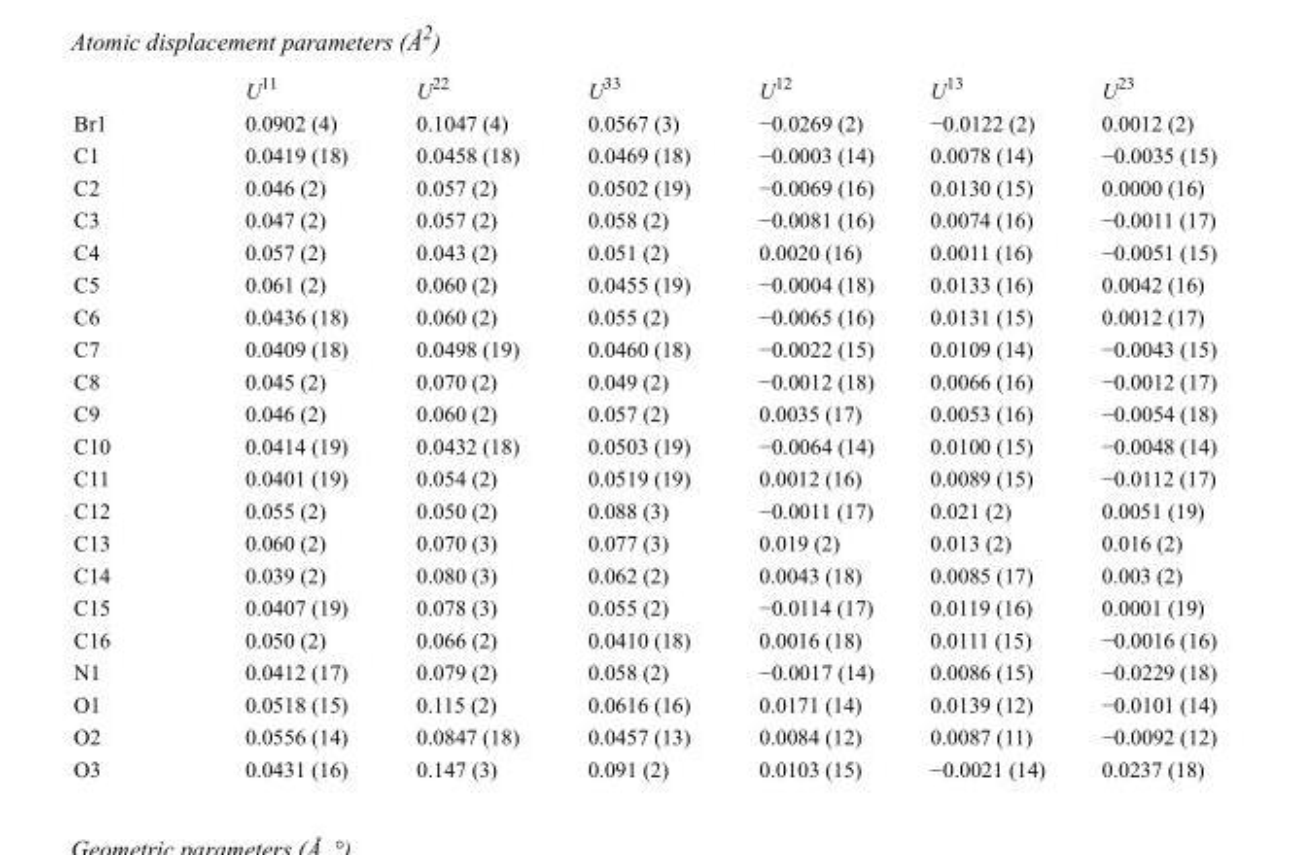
<table><thead><tr><td></td><td>U<sup>11</sup></td><td>U<sup>22</sup></td><td>U<sup>33</sup></td><td>U<sup>12</sup></td><td>U<sup>13</sup></td><td>U<sup>23</sup></td></tr></thead><tbody><tr><td>Br1</td><td>0.0902 (4)</td><td>0.1047 (4)</td><td>0.0567 (3)</td><td>−0.0269 (2)</td><td>−0.0122 (2)</td><td>0.0012 (2)</td></tr><tr><td>C1</td><td>0.0419 (18)</td><td>0.0458 (18)</td><td>0.0469 (18)</td><td>−0.0003 (14)</td><td>0.0078 (14)</td><td>−0.0035 (15)</td></tr><tr><td>C2</td><td>0.046 (2)</td><td>0.057 (2)</td><td>0.0502 (19)</td><td>−0.0069 (16)</td><td>0.0130 (15)</td><td>0.0000 (16)</td></tr><tr><td>C3</td><td>0.047 (2)</td><td>0.057 (2)</td><td>0.058 (2)</td><td>−0.0081 (16)</td><td>0.0074 (16)</td><td>−0.0011 (17)</td></tr><tr><td>C4</td><td>0.057 (2)</td><td>0.043 (2)</td><td>0.051 (2)</td><td>0.0020 (16)</td><td>0.0011 (16)</td><td>−0.0051 (15)</td></tr><tr><td>C5</td><td>0.061 (2)</td><td>0.060 (2)</td><td>0.0455 (19)</td><td>−0.0004 (18)</td><td>0.0133 (16)</td><td>0.0042 (16)</td></tr><tr><td>C6</td><td>0.0436 (18)</td><td>0.060 (2)</td><td>0.055 (2)</td><td>−0.0065 (16)</td><td>0.0131 (15)</td><td>0.0012 (17)</td></tr><tr><td>C7</td><td>0.0409 (18)</td><td>0.0498 (19)</td><td>0.0460 (18)</td><td>−0.0022 (15)</td><td>0.0109 (14)</td><td>−0.0043 (15)</td></tr><tr><td>C8</td><td>0.045 (2)</td><td>0.070 (2)</td><td>0.049 (2)</td><td>−0.0012 (18)</td><td>0.0066 (16)</td><td>−0.0012 (17)</td></tr><tr><td>C9</td><td>0.046 (2)</td><td>0.060 (2)</td><td>0.057 (2)</td><td>0.0035 (17)</td><td>0.0053 (16)</td><td>−0.0054 (18)</td></tr><tr><td>C10</td><td>0.0414 (19)</td><td>0.0432 (18)</td><td>0.0503 (19)</td><td>−0.0064 (14)</td><td>0.0100 (15)</td><td>−0.0048 (14)</td></tr><tr><td>C11</td><td>0.0401 (19)</td><td>0.054 (2)</td><td>0.0519 (19)</td><td>0.0012 (16)</td><td>0.0089 (15)</td><td>−0.0112 (17)</td></tr><tr><td>C12</td><td>0.055 (2)</td><td>0.050 (2)</td><td>0.088 (3)</td><td>−0.0011 (17)</td><td>0.021 (2)</td><td>0.0051 (19)</td></tr><tr><td>C13</td><td>0.060 (2)</td><td>0.070 (3)</td><td>0.077 (3)</td><td>0.019 (2)</td><td>0.013 (2)</td><td>0.016 (2)</td></tr><tr><td>C14</td><td>0.039 (2)</td><td>0.080 (3)</td><td>0.062 (2)</td><td>0.0043 (18)</td><td>0.0085 (17)</td><td>0.003 (2)</td></tr><tr><td>C15</td><td>0.0407 (19)</td><td>0.078 (3)</td><td>0.055 (2)</td><td>−0.0114 (17)</td><td>0.0119 (16)</td><td>0.0001 (19)</td></tr><tr><td>C16</td><td>0.050 (2)</td><td>0.066 (2)</td><td>0.0410 (18)</td><td>0.0016 (18)</td><td>0.0111 (15)</td><td>−0.0016 (16)</td></tr><tr><td>N1</td><td>0.0412 (17)</td><td>0.079 (2)</td><td>0.058 (2)</td><td>−0.0017 (14)</td><td>0.0086 (15)</td><td>−0.0229 (18)</td></tr><tr><td>O1</td><td>0.0518 (15)</td><td>0.115 (2)</td><td>0.0616 (16)</td><td>0.0171 (14)</td><td>0.0139 (12)</td><td>−0.0101 (14)</td></tr><tr><td>O2</td><td>0.0556 (14)</td><td>0.0847 (18)</td><td>0.0457 (13)</td><td>0.0084 (12)</td><td>0.0087 (11)</td><td>−0.0092 (12)</td></tr><tr><td>O3</td><td>0.0431 (16)</td><td>0.147 (3)</td><td>0.091 (2)</td><td>0.0103 (15)</td><td>−0.0021 (14)</td><td>0.0237 (18)</td></tr></tbody></table>